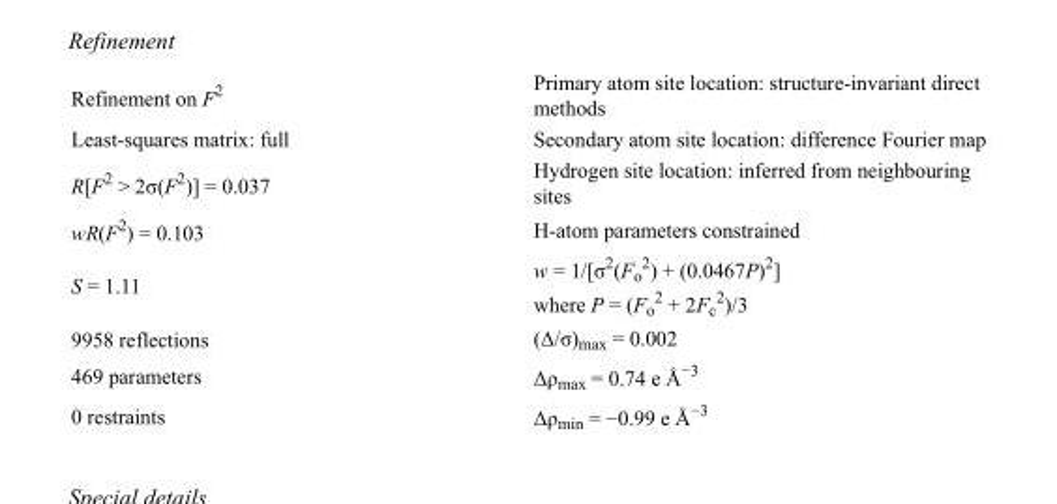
<table><tbody><tr><td>Refinement on F<sup>2</sup></td><td>Primary atom site location: structure-invariant direct methods</td></tr><tr><td>Least-squares matrix: full</td><td>Secondary atom site location: difference Fourier map</td></tr><tr><td>R[F<sup>2</sup> &gt; 2σ(F<sup>2</sup>)] = 0.037</td><td>Hydrogen site location: inferred from neighbouring sites</td></tr><tr><td>wR(F<sup>2</sup>) = 0.103</td><td>H-atom parameters constrained</td></tr><tr><td>S = 1.11</td><td>w = 1/[σ<sup>2</sup>(F<sub>o</sub> <sup>2</sup>) + (0.0467P)<sup>2</sup>] where P = (F<sub>o</sub> <sup>2</sup> + 2F<sub>c</sub> <sup>2</sup>)/3</td></tr><tr><td>9958 reflections</td><td>(Δ/σ)<sub>max</sub> = 0.002</td></tr><tr><td>469 parameters</td><td>Δρ<sub>max</sub> = 0.74 e Å<sup>−3</sup></td></tr><tr><td>0 restraints</td><td>Δρ<sub>min</sub> = −0.99 e Å<sup>−3</sup></td></tr></tbody></table>